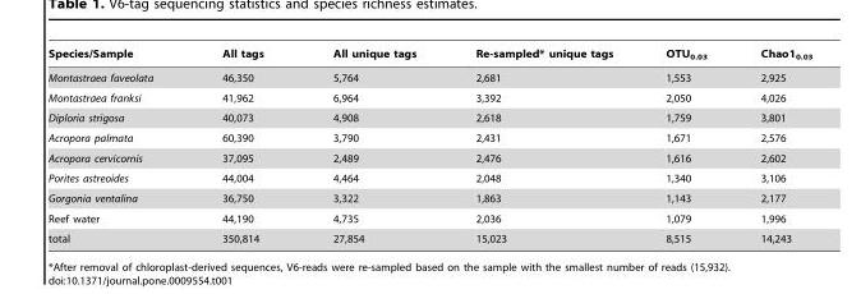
<table><thead><tr><td>Species/Sample</td><td>All tags</td><td>All unique tags</td><td>Re-sampled* unique tags</td><td>OTU<sub>0.03</sub></td><td>Chao1<sub>0.03</sub></td></tr></thead><tbody><tr><td>Montastraea faveolata</td><td>46,350</td><td>5,764</td><td>2,681</td><td>1,553</td><td>2,925</td></tr><tr><td>Montastraea franksi</td><td>41,962</td><td>6,964</td><td>3,392</td><td>2,050</td><td>4,026</td></tr><tr><td>Diploria strigosa</td><td>40,073</td><td>4,908</td><td>2,618</td><td>1,759</td><td>3,801</td></tr><tr><td>Acropora palmata</td><td>60,390</td><td>3,790</td><td>2,431</td><td>1,671</td><td>2,576</td></tr><tr><td>Acropora cervicornis</td><td>37,095</td><td>2,489</td><td>2,476</td><td>1,616</td><td>2,602</td></tr><tr><td>Porites astreoides</td><td>44,004</td><td>4,464</td><td>2,048</td><td>1,340</td><td>3,106</td></tr><tr><td>Gorgonia ventalina</td><td>36,750</td><td>3,322</td><td>1,863</td><td>1,143</td><td>2,177</td></tr><tr><td>Reef water</td><td>44,190</td><td>4,735</td><td>2,036</td><td>1,079</td><td>1,996</td></tr><tr><td>total</td><td>350,814</td><td>27,854</td><td>15,023</td><td>8,515</td><td>14,243</td></tr></tbody></table>